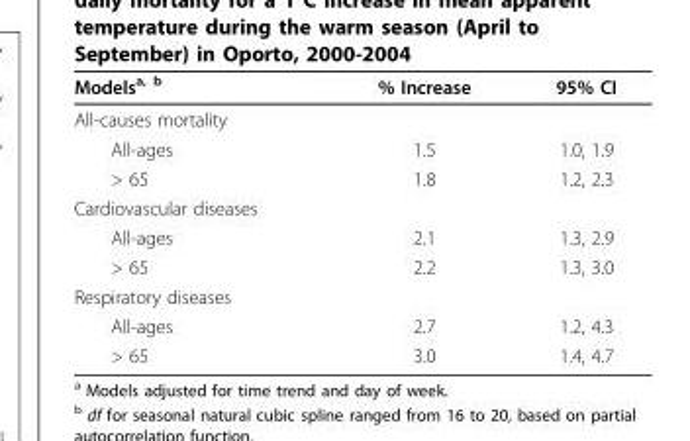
<table><thead><tr><td>Models<sup>a, b</sup></td><td>% Increase</td><td>95% CI</td></tr></thead><tbody><tr><td colspan="3">All-causes mortality</td></tr><tr><td>All-ages</td><td>1.5</td><td>1.0, 1.9</td></tr><tr><td>&gt; 65</td><td>1.8</td><td>1.2, 2.3</td></tr><tr><td colspan="3">Cardiovascular diseases</td></tr><tr><td>All-ages</td><td>2.1</td><td>1.3, 2.9</td></tr><tr><td>&gt; 65</td><td>2.2</td><td>1.3, 3.0</td></tr><tr><td colspan="3">Respiratory diseases</td></tr><tr><td>All-ages</td><td>2.7</td><td>1.2, 4.3</td></tr><tr><td>&gt; 65</td><td>3.0</td><td>1.4, 4.7</td></tr></tbody></table>